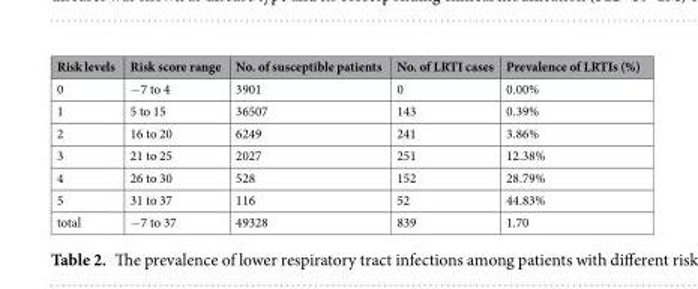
<table><thead><tr><td>Risk levels</td><td>Risk score range</td><td>No. of susceptible patients</td><td>No. of LRTI cases</td><td>Prevalence of LRTIs (%)</td></tr></thead><tbody><tr><td>0</td><td>−7 to 4</td><td>3901</td><td>0</td><td>0.00%</td></tr><tr><td>1</td><td>5 to 15</td><td>36507</td><td>143</td><td>0.39%</td></tr><tr><td>2</td><td>16 to 20</td><td>6249</td><td>241</td><td>3.86%</td></tr><tr><td>3</td><td>21 to 25</td><td>2027</td><td>251</td><td>12.38%</td></tr><tr><td>4</td><td>26 to 30</td><td>528</td><td>152</td><td>28.79%</td></tr><tr><td>5</td><td>31 to 37</td><td>116</td><td>52</td><td>44.83%</td></tr><tr><td>total</td><td>−7 to 37</td><td>49328</td><td>839</td><td>1.70</td></tr></tbody></table>